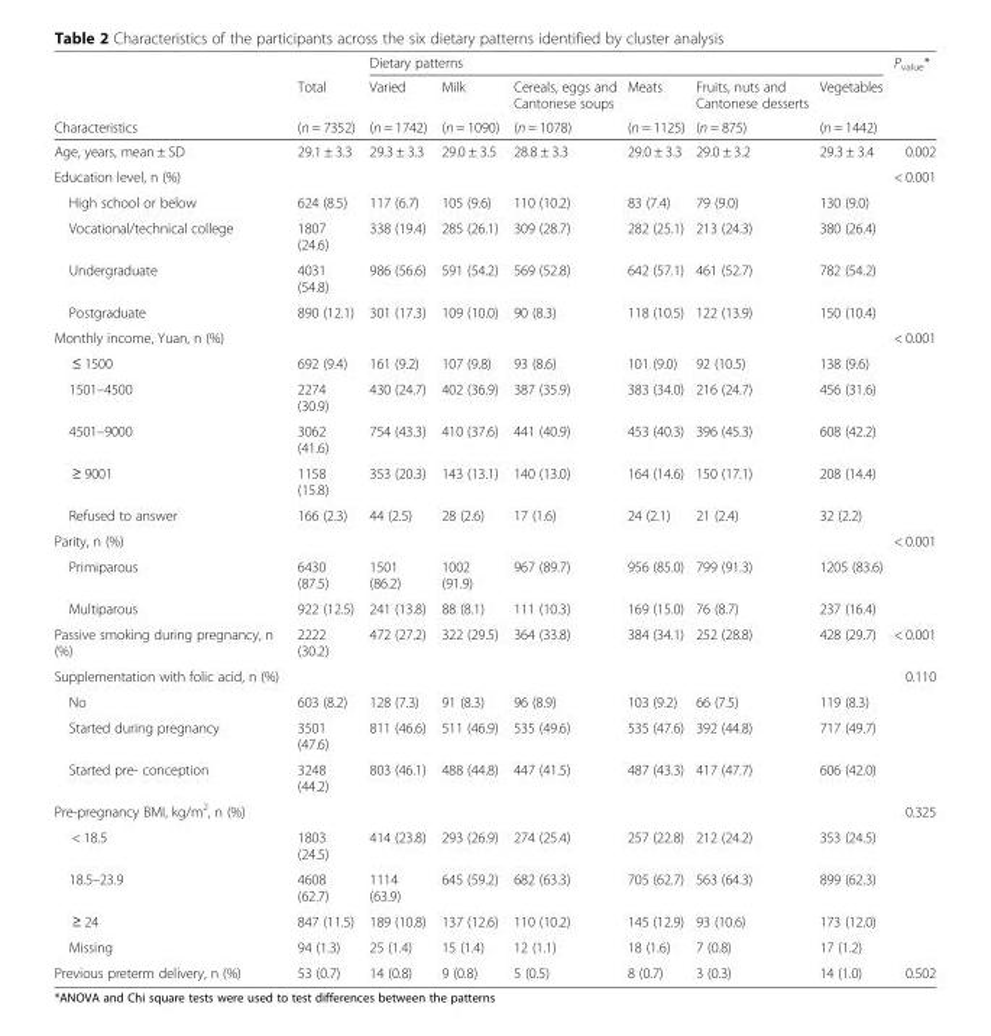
<table><thead><tr><td rowspan="3">Characteristics</td><td rowspan="3">Total (n = 7352)</td><td colspan="6">Dietary patterns</td><td rowspan="3">P<sub>value</sub>*</td></tr><tr><td rowspan="2">Varied (n = 1742)</td><td rowspan="2">Milk (n = 1090)</td><td rowspan="2">Cereals, eggs and Cantonese soups (n = 1078)</td><td rowspan="2">Meats (n = 1125)</td><td rowspan="2">Fruits, nuts and Cantonese desserts (n = 875)</td><td rowspan="2">Vegetables (n = 1442)</td></tr><tr></tr></thead><tbody><tr><td>Age, years, mean ± SD</td><td>29.1 ± 3.3</td><td>29.3 ± 3.3</td><td>29.0 ± 3.5</td><td>28.8 ± 3.3</td><td>29.0 ± 3.3</td><td>29.0 ± 3.2</td><td>29.3 ± 3.4</td><td>0.002</td></tr><tr><td>Education level, n (%)</td><td></td><td></td><td></td><td></td><td></td><td></td><td></td><td>&lt; 0.001</td></tr><tr><td>High school or below</td><td>624 (8.5)</td><td>117 (6.7)</td><td>105 (9.6)</td><td>110 (10.2)</td><td>83 (7.4)</td><td>79 (9.0)</td><td>130 (9.0)</td><td></td></tr><tr><td>Vocational/technical college</td><td>1807 (24.6)</td><td>338 (19.4)</td><td>285 (26.1)</td><td>309 (28.7)</td><td>282 (25.1)</td><td>213 (24.3)</td><td>380 (26.4)</td><td></td></tr><tr><td>Undergraduate</td><td>4031 (54.8)</td><td>986 (56.6)</td><td>591 (54.2)</td><td>569 (52.8)</td><td>642 (57.1)</td><td>461 (52.7)</td><td>782 (54.2)</td><td></td></tr><tr><td>Postgraduate</td><td>890 (12.1)</td><td>301 (17.3)</td><td>109 (10.0)</td><td>90 (8.3)</td><td>118 (10.5)</td><td>122 (13.9)</td><td>150 (10.4)</td><td></td></tr><tr><td colspan="3">Monthly income, Yuan, n (%)</td><td></td><td></td><td></td><td></td><td></td><td>&lt; 0.001</td></tr><tr><td>≤ 1500</td><td>692 (9.4)</td><td>161 (9.2)</td><td>107 (9.8)</td><td>93 (8.6)</td><td>101 (9.0)</td><td>92 (10.5)</td><td>138 (9.6)</td><td></td></tr><tr><td>1501–4500</td><td>2274 (30.9)</td><td>430 (24.7)</td><td>402 (36.9)</td><td>387 (35.9)</td><td>383 (34.0)</td><td>216 (24.7)</td><td>456 (31.6)</td><td></td></tr><tr><td>4501–9000</td><td>3062 (41.6)</td><td>754 (43.3)</td><td>410 (37.6)</td><td>441 (40.9)</td><td>453 (40.3)</td><td>396 (45.3)</td><td>608 (42.2)</td><td></td></tr><tr><td>≥ 9001</td><td>1158 (15.8)</td><td>353 (20.3)</td><td>143 (13.1)</td><td>140 (13.0)</td><td>164 (14.6)</td><td>150 (17.1)</td><td>208 (14.4)</td><td></td></tr><tr><td>Refused to answer</td><td>166 (2.3)</td><td>44 (2.5)</td><td>28 (2.6)</td><td>17 (1.6)</td><td>24 (2.1)</td><td>21 (2.4)</td><td>32 (2.2)</td><td></td></tr><tr><td>Parity, n (%)</td><td></td><td></td><td></td><td></td><td></td><td></td><td></td><td>&lt; 0.001</td></tr><tr><td>Primiparous</td><td>6430 (87.5)</td><td>1501 (86.2)</td><td>1002 (91.9)</td><td>967 (89.7)</td><td>956 (85.0)</td><td>799 (91.3)</td><td>1205 (83.6)</td><td></td></tr><tr><td>Multiparous</td><td>922 (12.5)</td><td>241 (13.8)</td><td>88 (8.1)</td><td>111 (10.3)</td><td>169 (15.0)</td><td>76 (8.7)</td><td>237 (16.4)</td><td></td></tr><tr><td>Passive smoking during pregnancy, n (%)</td><td>2222 (30.2)</td><td>472 (27.2)</td><td>322 (29.5)</td><td>364 (33.8)</td><td>384 (34.1)</td><td>252 (28.8)</td><td>428 (29.7)</td><td>&lt; 0.001</td></tr><tr><td colspan="3">Supplementation with folic acid, n (%)</td><td></td><td></td><td></td><td></td><td></td><td>0.110</td></tr><tr><td>No</td><td>603 (8.2)</td><td>128 (7.3)</td><td>91 (8.3)</td><td>96 (8.9)</td><td>103 (9.2)</td><td>66 (7.5)</td><td>119 (8.3)</td><td></td></tr><tr><td>Started during pregnancy</td><td>3501 (47.6)</td><td>811 (46.6)</td><td>511 (46.9)</td><td>535 (49.6)</td><td>535 (47.6)</td><td>392 (44.8)</td><td>717 (49.7)</td><td></td></tr><tr><td>Started pre- conception</td><td>3248 (44.2)</td><td>803 (46.1)</td><td>488 (44.8)</td><td>447 (41.5)</td><td>487 (43.3)</td><td>417 (47.7)</td><td>606 (42.0)</td><td></td></tr><tr><td colspan="3">Pre-pregnancy BMI, kg/m<sup>2</sup>, n (%)</td><td></td><td></td><td></td><td></td><td></td><td>0.325</td></tr><tr><td>&lt; 18.5</td><td>1803 (24.5)</td><td>414 (23.8)</td><td>293 (26.9)</td><td>274 (25.4)</td><td>257 (22.8)</td><td>212 (24.2)</td><td>353 (24.5)</td><td></td></tr><tr><td>18.5–23.9</td><td>4608 (62.7)</td><td>1114 (63.9)</td><td>645 (59.2)</td><td>682 (63.3)</td><td>705 (62.7)</td><td>563 (64.3)</td><td>899 (62.3)</td><td></td></tr><tr><td>≥ 24</td><td>847 (11.5)</td><td>189 (10.8)</td><td>137 (12.6)</td><td>110 (10.2)</td><td>145 (12.9)</td><td>93 (10.6)</td><td>173 (12.0)</td><td></td></tr><tr><td>Missing</td><td>94 (1.3)</td><td>25 (1.4)</td><td>15 (1.4)</td><td>12 (1.1)</td><td>18 (1.6)</td><td>7 (0.8)</td><td>17 (1.2)</td><td></td></tr><tr><td>Previous preterm delivery, n (%)</td><td>53 (0.7)</td><td>14 (0.8)</td><td>9 (0.8)</td><td>5 (0.5)</td><td>8 (0.7)</td><td>3 (0.3)</td><td>14 (1.0)</td><td>0.502</td></tr></tbody></table>